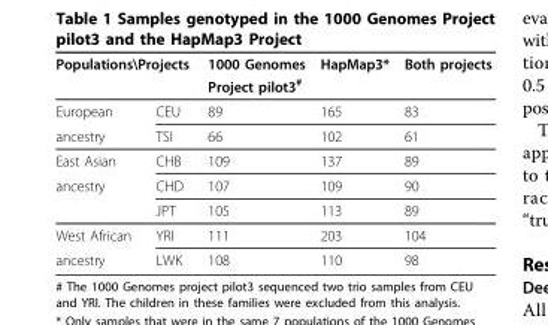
<table><thead><tr><td colspan="2">Populations\Projects</td><td rowspan="2">1000 Genomes Project pilot3<sup>#</sup></td><td rowspan="2">HapMap3*</td><td rowspan="2">Both projects</td></tr><tr><td></td><td></td></tr></thead><tbody><tr><td>European</td><td>CEU</td><td>89</td><td>165</td><td>83</td></tr><tr><td>ancestry</td><td>TSI</td><td>66</td><td>102</td><td>61</td></tr><tr><td>East Asian</td><td>CHB</td><td>109</td><td>137</td><td>89</td></tr><tr><td rowspan="2">ancestry</td><td>CHD</td><td>107</td><td>109</td><td>90</td></tr><tr><td>JPT</td><td>105</td><td>113</td><td>89</td></tr><tr><td>West African</td><td>YRI</td><td>111</td><td>203</td><td>104</td></tr><tr><td>ancestry</td><td>LWK</td><td>108</td><td>110</td><td>98</td></tr></tbody></table>